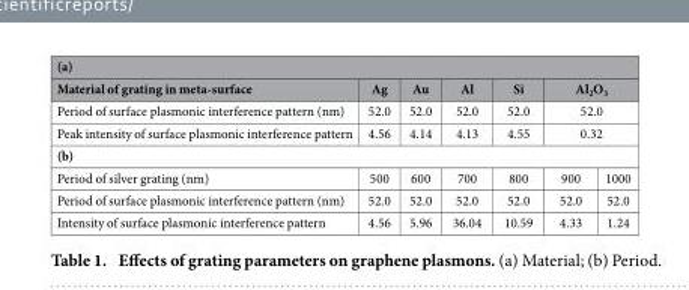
<table><thead><tr><td colspan="7">(a)</td></tr><tr><td>Material of grating in meta-surface</td><td>Ag</td><td>Au</td><td>Al</td><td>Si</td><td colspan="2">Al<sub>2</sub>O<sub>3</sub></td></tr></thead><tbody><tr><td>Period of surface plasmonic interference pattern (nm)</td><td>52.0</td><td>52.0</td><td>52.0</td><td>52.0</td><td colspan="2">52.0</td></tr><tr><td>Peak intensity of surface plasmonic interference pattern</td><td>4.56</td><td>4.14</td><td>4.13</td><td>4.55</td><td colspan="2">0.32</td></tr><tr><td colspan="7">(b)</td></tr><tr><td>Period of silver grating (nm)</td><td>500</td><td>600</td><td>700</td><td>800</td><td>900</td><td>1000</td></tr><tr><td>Period of surface plasmonic interference pattern (nm)</td><td>52.0</td><td>52.0</td><td>52.0</td><td>52.0</td><td>52.0</td><td>52.0</td></tr><tr><td>Intensity of surface plasmonic interference pattern</td><td>4.56</td><td>5.96</td><td>36.04</td><td>10.59</td><td>4.33</td><td>1.24</td></tr></tbody></table>